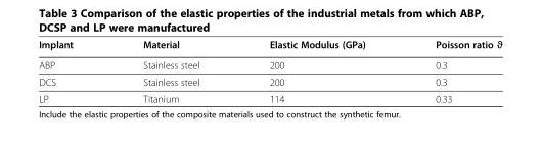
<table><thead><tr><td>Implant</td><td>Material</td><td>Elastic Modulus (GPa)</td><td>Poisson ratio ϑ</td></tr></thead><tbody><tr><td>ABP</td><td>Stainless steel</td><td>200</td><td>0.3</td></tr><tr><td>DCS</td><td>Stainless steel</td><td>200</td><td>0.3</td></tr><tr><td>LP</td><td>Titanium</td><td>114</td><td>0.33</td></tr></tbody></table>